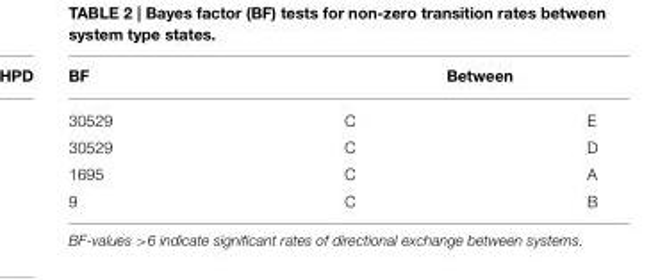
<table><thead><tr><td rowspan="2">BF 30529</td><td colspan="2">Between</td></tr><tr><td>C</td><td>E</td></tr></thead><tbody><tr><td>30529</td><td>C</td><td>D</td></tr><tr><td>1695</td><td>C</td><td>A</td></tr><tr><td>9</td><td>C</td><td>B</td></tr></tbody></table>